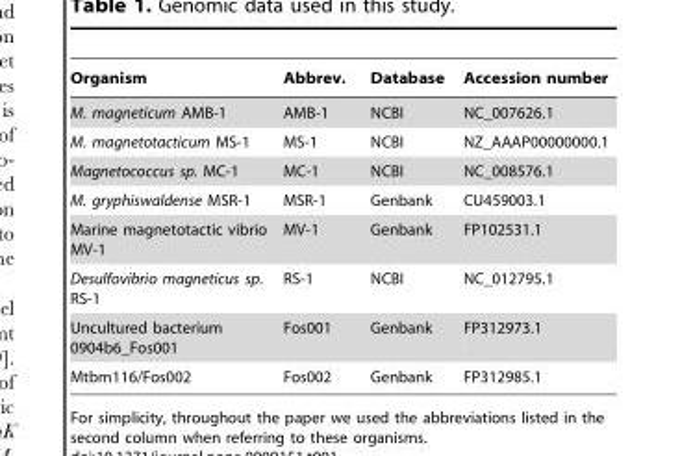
<table><thead><tr><td>Organism</td><td>Abbrev.</td><td>Database</td><td>Accession number</td></tr></thead><tbody><tr><td>M. magneticum AMB-1</td><td>AMB-1</td><td>NCBI</td><td>NC_007626.1</td></tr><tr><td>M. magnetotacticum MS-1</td><td>MS-1</td><td>NCBI</td><td>NZ_AAAP00000000.1</td></tr><tr><td>Magnetococcus sp. MC-1</td><td>MC-1</td><td>NCBI</td><td>NC_008576.1</td></tr><tr><td>M. gryphiswaldense MSR-1</td><td>MSR-1</td><td>Genbank</td><td>CU459003.1</td></tr><tr><td>Marine magnetotactic vibrio MV-1</td><td>MV-1</td><td>Genbank</td><td>FP102531.1</td></tr><tr><td>Desulfovibrio magneticus sp. RS-1</td><td>RS-1</td><td>NCBI</td><td>NC_012795.1</td></tr><tr><td>Uncultured bacterium 0904b6_Fos001</td><td>Fos001</td><td>Genbank</td><td>FP312973.1</td></tr><tr><td>Mtbm116/Fos002</td><td>Fos002</td><td>Genbank</td><td>FP312985.1</td></tr></tbody></table>